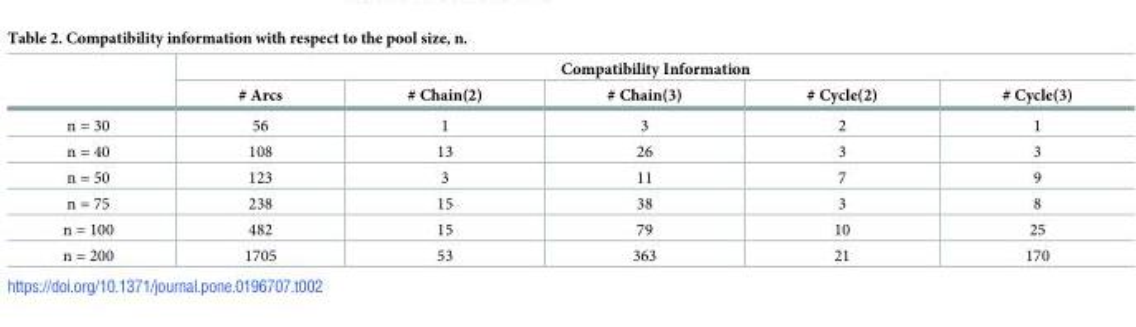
<table><thead><tr><td rowspan="2"></td><td colspan="5">Compatibility Information</td></tr><tr><td># Arcs</td><td># Chain(2)</td><td># Chain(3)</td><td># Cycle(2)</td><td># Cycle(3)</td></tr></thead><tbody><tr><td>n = 30</td><td>56</td><td>1</td><td>3</td><td>2</td><td>1</td></tr><tr><td>n = 40</td><td>108</td><td>13</td><td>26</td><td>3</td><td>3</td></tr><tr><td>n = 50</td><td>123</td><td>3</td><td>11</td><td>7</td><td>9</td></tr><tr><td>n = 75</td><td>238</td><td>15</td><td>38</td><td>3</td><td>8</td></tr><tr><td>n = 100</td><td>482</td><td>15</td><td>79</td><td>10</td><td>25</td></tr><tr><td>n = 200</td><td>1705</td><td>53</td><td>363</td><td>21</td><td>170</td></tr></tbody></table>